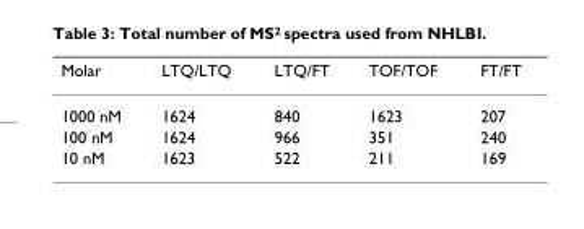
<table><thead><tr><td>Molar</td><td>LTQ/LTQ</td><td>LTQ/FT</td><td>TOF/TOF</td><td>FT/FT</td></tr></thead><tbody><tr><td>1000 nM</td><td>1624</td><td>840</td><td>1623</td><td>207</td></tr><tr><td>100 nM</td><td>1624</td><td>966</td><td>351</td><td>240</td></tr><tr><td>10 nM</td><td>1623</td><td>522</td><td>211</td><td>169</td></tr></tbody></table>